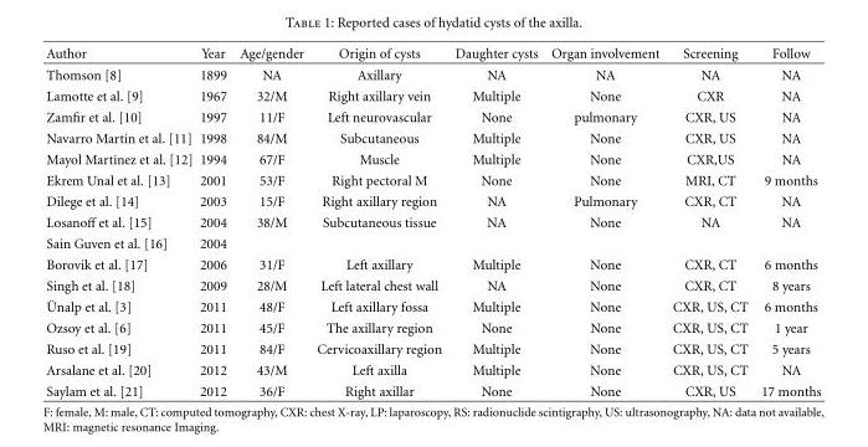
<table><thead><tr><td>Author</td><td>Year</td><td>Age/gender</td><td>Origin of cysts</td><td>Daughter cysts</td><td>Organ involvement</td><td>Screening</td><td>Follow</td></tr></thead><tbody><tr><td>Thomson [8]</td><td>1899</td><td>NA</td><td>Axillary</td><td>NA</td><td>NA</td><td>NA</td><td>NA</td></tr><tr><td>Lamotte et al. [9]</td><td>1967</td><td>32/M</td><td>Right axillary vein</td><td>Multiple</td><td>None</td><td>CXR</td><td>NA</td></tr><tr><td>Zamfir et al. [10]</td><td>1997</td><td>11/F</td><td>Left neurovascular</td><td>None</td><td>pulmonary</td><td>CXR, US</td><td>NA</td></tr><tr><td>Navarro Mart´ın et al. [11]</td><td>1998</td><td>84/M</td><td>Subcutaneous</td><td>Multiple</td><td>None</td><td>CXR, US</td><td>NA</td></tr><tr><td>Mayol Mart´ınez et al. [12]</td><td>1994</td><td>67/F</td><td>Muscle</td><td>Multiple</td><td>None</td><td>CXR,US</td><td>NA</td></tr><tr><td>Ekrem Unal et al. [13]</td><td>2001</td><td>53/F</td><td>Right pectoral M</td><td>None</td><td>None</td><td>MRI, CT</td><td>9 months</td></tr><tr><td>Dilege et al. [14]</td><td>2003</td><td>15/F</td><td>Right axillary region</td><td>NA</td><td>Pulmonary</td><td>CXR, CT</td><td>NA</td></tr><tr><td>Losanoff et al. [15]</td><td>2004</td><td>38/M</td><td>Subcutaneous tissue</td><td>NA</td><td>None</td><td>NA</td><td>NA</td></tr><tr><td>Sain Guven et al. [16]</td><td>2004</td><td></td><td></td><td></td><td></td><td></td><td></td></tr><tr><td>Borovik et al. [17]</td><td>2006</td><td>31/F</td><td>Left axillary</td><td>Multiple</td><td>None</td><td>CXR, CT</td><td>6 months</td></tr><tr><td>Singh et al. [18]</td><td>2009</td><td>28/M</td><td>Left lateral chest wall</td><td>NA</td><td>None</td><td>CXR, CT</td><td>8 years</td></tr><tr><td>¨Unalp et al. [3]</td><td>2011</td><td>48/F</td><td>Left axillary fossa</td><td>Multiple</td><td>None</td><td>CXR, US, CT</td><td>6 months</td></tr><tr><td>Ozsoy et al. [6]</td><td>2011</td><td>45/F</td><td>The axillary region</td><td>None</td><td>None</td><td>CXR, US, CT</td><td>1 year</td></tr><tr><td>Ruso et al. [19]</td><td>2011</td><td>84/F</td><td>Cervicoaxillary region</td><td>Multiple</td><td>None</td><td>CXR, US, CT</td><td>5 years</td></tr><tr><td>Arsalane et al. [20]</td><td>2012</td><td>43/M</td><td>Left axilla</td><td>Multiple</td><td>None</td><td>CXR, US, CT</td><td>NA</td></tr><tr><td>Saylam et al. [21]</td><td>2012</td><td>36/F</td><td>Right axillar</td><td>None</td><td>None</td><td>CXR, US</td><td>17 months</td></tr></tbody></table>